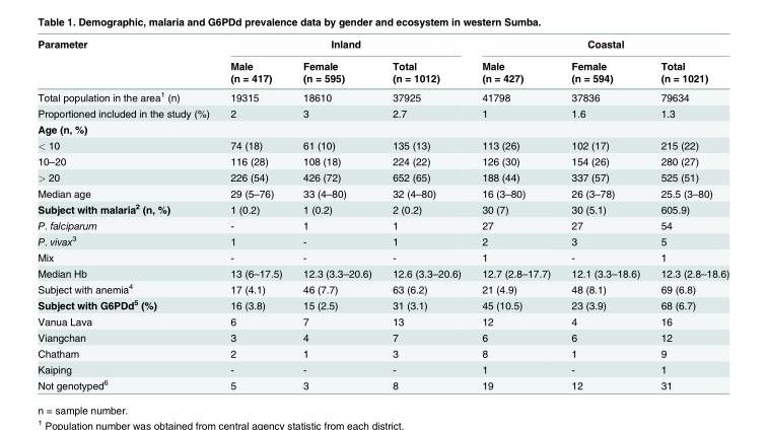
<table><thead><tr><td rowspan="3">Parameter</td><td colspan="3">Inland</td><td colspan="3">Coastal</td></tr><tr><td rowspan="2">Male (n = 417)</td><td rowspan="2">Female (n = 595)</td><td rowspan="2">Total (n = 1012)</td><td rowspan="2">Male (n = 427)</td><td rowspan="2">Female (n = 594)</td><td rowspan="2">Total (n = 1021)</td></tr><tr></tr></thead><tbody><tr><td>Total population in the area<sup>1</sup> (n)</td><td>19315</td><td>18610</td><td>37925</td><td>41798</td><td>37836</td><td>79634</td></tr><tr><td>Proportioned included in the study (%)</td><td>2</td><td>3</td><td>2.7</td><td>1</td><td>1.6</td><td>1.3</td></tr><tr><td colspan="7">Age (n, %)</td></tr><tr><td>&lt; 10</td><td>74 (18)</td><td>61 (10)</td><td>135 (13)</td><td>113 (26)</td><td>102 (17)</td><td>215 (22)</td></tr><tr><td>10–20</td><td>116 (28)</td><td>108 (18)</td><td>224 (22)</td><td>126 (30)</td><td>154 (26)</td><td>280 (27)</td></tr><tr><td>&gt; 20</td><td>226 (54)</td><td>426 (72)</td><td>652 (65)</td><td>188 (44)</td><td>337 (57)</td><td>525 (51)</td></tr><tr><td>Median age</td><td>29 (5–76)</td><td>33 (4–80)</td><td>32 (4–80)</td><td>16 (3–80)</td><td>26 (3–78)</td><td>25.5 (3–80)</td></tr><tr><td>Subject with malaria<sup>2</sup> (n, %)</td><td>1 (0.2)</td><td>1 (0.2)</td><td>2 (0.2)</td><td>30 (7)</td><td>30 (5.1)</td><td>605.9)</td></tr><tr><td>P. falciparum</td><td>-</td><td>1</td><td>1</td><td>27</td><td>27</td><td>54</td></tr><tr><td>P. vivax<sup>3</sup></td><td>1</td><td>-</td><td>1</td><td>2</td><td>3</td><td>5</td></tr><tr><td>Mix</td><td>-</td><td>-</td><td>-</td><td>1</td><td>-</td><td>1</td></tr><tr><td>Median Hb</td><td>13 (6–17.5)</td><td>12.3 (3.3–20.6)</td><td>12.6 (3.3–20.6)</td><td>12.7 (2.8–17.7)</td><td>12.1 (3.3–18.6)</td><td>12.3 (2.8–18.6)</td></tr><tr><td>Subject with anemia<sup>4</sup></td><td>17 (4.1)</td><td>46 (7.7)</td><td>63 (6.2)</td><td>21 (4.9)</td><td>48 (8.1)</td><td>69 (6.8)</td></tr><tr><td>Subject with G6PDd<sup>5</sup> (%)</td><td>16 (3.8)</td><td>15 (2.5)</td><td>31 (3.1)</td><td>45 (10.5)</td><td>23 (3.9)</td><td>68 (6.7)</td></tr><tr><td>Vanua Lava</td><td>6</td><td>7</td><td>13</td><td>12</td><td>4</td><td>16</td></tr><tr><td>Viangchan</td><td>3</td><td>4</td><td>7</td><td>6</td><td>6</td><td>12</td></tr><tr><td>Chatham</td><td>2</td><td>1</td><td>3</td><td>8</td><td>1</td><td>9</td></tr><tr><td>Kaiping</td><td>-</td><td>-</td><td>-</td><td>1</td><td>-</td><td>1</td></tr><tr><td>Not genotyped<sup>6</sup></td><td>5</td><td>3</td><td>8</td><td>19</td><td>12</td><td>31</td></tr></tbody></table>